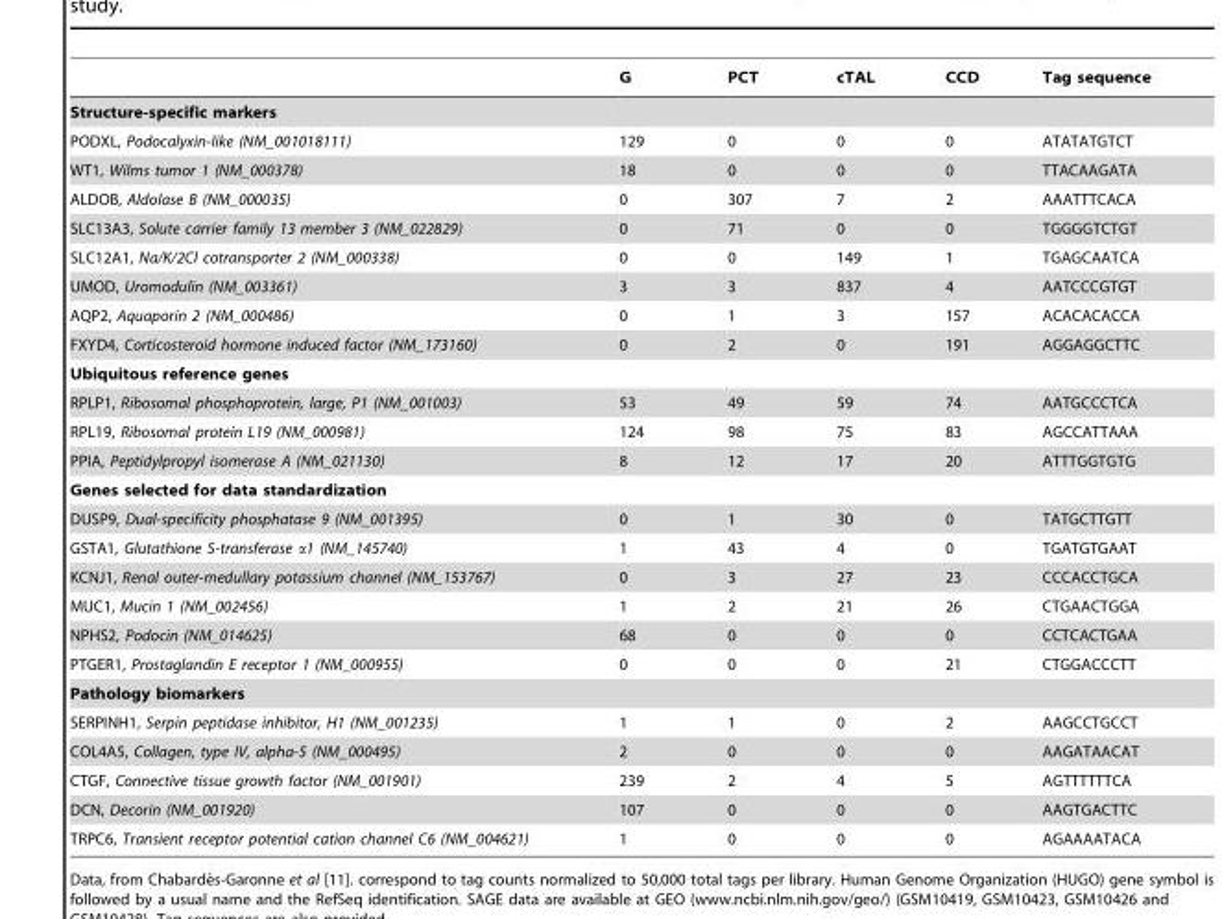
<table><thead><tr><td></td><td>G</td><td>PCT</td><td>cTAL</td><td>CCD</td><td>Tag sequence</td></tr></thead><tbody><tr><td colspan="6">Structure-specific markers</td></tr><tr><td>PODXL, Podocalyxin-like (NM_001018111)</td><td>129</td><td>0</td><td>0</td><td>0</td><td>ATATATGTCT</td></tr><tr><td>WT1, Wilms tumor 1 (NM_000378)</td><td>18</td><td>0</td><td>0</td><td>0</td><td>TTACAAGATA</td></tr><tr><td>ALDOB, Aldolase B (NM_000035)</td><td>0</td><td>307</td><td>7</td><td>2</td><td>AAATTTCACA</td></tr><tr><td>SLC13A3, Solute carrier family 13 member 3 (NM_022829)</td><td>0</td><td>71</td><td>0</td><td>0</td><td>TGGGGTCTGT</td></tr><tr><td>SLC12A1, Na/K/2Cl cotransporter 2 (NM_000338)</td><td>0</td><td>0</td><td>149</td><td>1</td><td>TGAGCAATCA</td></tr><tr><td>UMOD, Uromodulin (NM_003361)</td><td>3</td><td>3</td><td>837</td><td>4</td><td>AATCCCGTGT</td></tr><tr><td>AQP2, Aquaporin 2 (NM_000486)</td><td>0</td><td>1</td><td>3</td><td>157</td><td>ACACACACCA</td></tr><tr><td>FXYD4, Corticosteroid hormone induced factor (NM_173160)</td><td>0</td><td>2</td><td>0</td><td>191</td><td>AGGAGGCTTC</td></tr><tr><td colspan="6">Ubiquitous reference genes</td></tr><tr><td>RPLP1, Ribosomal phosphoprotein, large, P1 (NM_001003)</td><td>53</td><td>49</td><td>59</td><td>74</td><td>AATGCCCTCA</td></tr><tr><td>RPL19, Ribosomal protein L19 (NM_000981)</td><td>124</td><td>98</td><td>75</td><td>83</td><td>AGCCATTAAA</td></tr><tr><td>PPIA, Peptidylpropyl isomerase A (NM_021130)</td><td>8</td><td>12</td><td>17</td><td>20</td><td>ATTTGGTGTG</td></tr><tr><td colspan="6">Genes selected for data standardization</td></tr><tr><td>DUSP9, Dual-specificity phosphatase 9 (NM_001395)</td><td>0</td><td>1</td><td>30</td><td>0</td><td>TATGCTTGTT</td></tr><tr><td>GSTA1, Glutathione S-transferase α1 (NM_145740)</td><td>1</td><td>43</td><td>4</td><td>0</td><td>TGATGTGAAT</td></tr><tr><td>KCNJ1, Renal outer-medullary potassium channel (NM_153767)</td><td>0</td><td>3</td><td>27</td><td>23</td><td>CCCACCTGCA</td></tr><tr><td>MUC1, Mucin 1 (NM_002456)</td><td>1</td><td>2</td><td>21</td><td>26</td><td>CTGAACTGGA</td></tr><tr><td>NPHS2, Podocin (NM_014625)</td><td>68</td><td>0</td><td>0</td><td>0</td><td>CCTCACTGAA</td></tr><tr><td>PTGER1, Prostaglandin E receptor 1 (NM_000955)</td><td>0</td><td>0</td><td>0</td><td>21</td><td>CTGGACCCTT</td></tr><tr><td colspan="6">Pathology biomarkers</td></tr><tr><td>SERPINH1, Serpin peptidase inhibitor, H1 (NM_001235)</td><td>1</td><td>1</td><td>0</td><td>2</td><td>AAGCCTGCCT</td></tr><tr><td>COL4A5, Collagen, type IV, alpha-5 (NM_000495)</td><td>2</td><td>0</td><td>0</td><td>0</td><td>AAGATAACAT</td></tr><tr><td>CTGF, Connective tissue growth factor (NM_001901)</td><td>239</td><td>2</td><td>4</td><td>5</td><td>AGTTTTTTCA</td></tr><tr><td>DCN, Decorin (NM_001920)</td><td>107</td><td>0</td><td>0</td><td>0</td><td>AAGTGACTTC</td></tr><tr><td>TRPC6, Transient receptor potential cation channel C6 (NM_004621)</td><td>1</td><td>0</td><td>0</td><td>0</td><td>AGAAAATACA</td></tr></tbody></table>